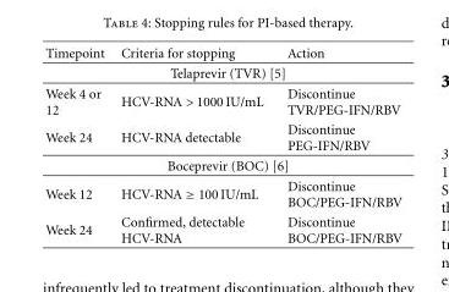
<table><thead><tr><td>Timepoint</td><td>Criteria for stopping</td><td>Action</td></tr></thead><tbody><tr><td colspan="3">Telaprevir (TVR) [5]</td></tr><tr><td>Week 4 or 12</td><td>HCV-RNA &gt; 1000 IU/mL</td><td>Discontinue TVR/PEG-IFN/RBV</td></tr><tr><td>Week 24</td><td>HCV-RNA detectable</td><td>Discontinue PEG-IFN/RBV</td></tr><tr><td colspan="3">Boceprevir (BOC) [6]</td></tr><tr><td>Week 12</td><td>HCV-RNA ≥ 100 IU/mL</td><td>Discontinue BOC/PEG-IFN/RBV</td></tr><tr><td>Week 24</td><td>Confirmed, detectable HCV-RNA</td><td>Discontinue BOC/PEG-IFN/RBV</td></tr></tbody></table>